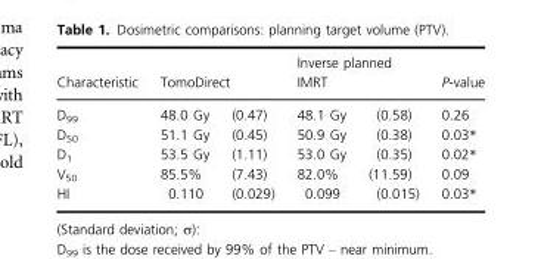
<table><thead><tr><td rowspan="2">Characteristic D<sub>99</sub></td><td colspan="2">TomoDirect</td><td colspan="2">Inverse planned IMRT</td><td rowspan="2">P-value 0.26</td></tr><tr><td>48.0 Gy</td><td>(0.47)</td><td>48.1 Gy</td><td>(0.58)</td></tr></thead><tbody><tr><td>D<sub>50</sub></td><td>51.1 Gy</td><td>(0.45)</td><td>50.9 Gy</td><td>(0.38)</td><td>0.03*</td></tr><tr><td>D<sub>1</sub></td><td>53.5 Gy</td><td>(1.11)</td><td>53.0 Gy</td><td>(0.35)</td><td>0.02*</td></tr><tr><td>V<sub>50</sub></td><td>85.5%</td><td>(7.43)</td><td>82.0%</td><td>(11.59)</td><td>0.09</td></tr><tr><td>HI</td><td>0.110</td><td>(0.029)</td><td>0.099</td><td>(0.015)</td><td>0.03*</td></tr></tbody></table>